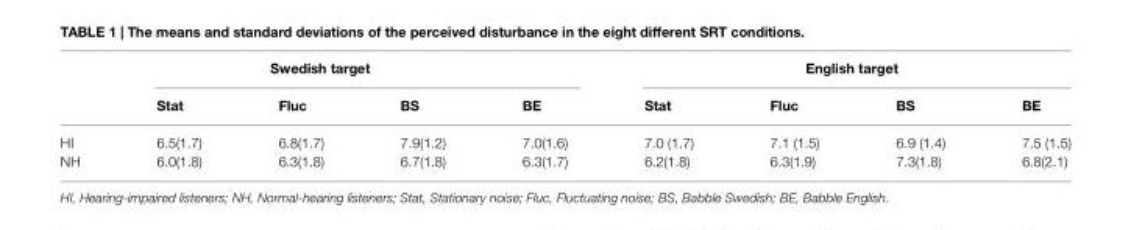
<table><thead><tr><td rowspan="2"></td><td colspan="4">Swedish target</td><td colspan="4">English target</td></tr><tr><td>Stat</td><td>Fluc</td><td>BS</td><td>BE</td><td>Stat</td><td>Fluc</td><td>BS</td><td>BE</td></tr></thead><tbody><tr><td>HI</td><td>6.5(1.7)</td><td>6.8(1.7)</td><td>7.9(1.2)</td><td>7.0(1.6)</td><td>7.0 (1.7)</td><td>7.1 (1.5)</td><td>6.9 (1.4)</td><td>7.5 (1.5)</td></tr><tr><td>NH</td><td>6.0(1.8)</td><td>6.3(1.8)</td><td>6.7(1.8)</td><td>6.3(1.7)</td><td>6.2(1.8)</td><td>6.3(1.9)</td><td>7.3(1.8)</td><td>6.8(2.1)</td></tr></tbody></table>